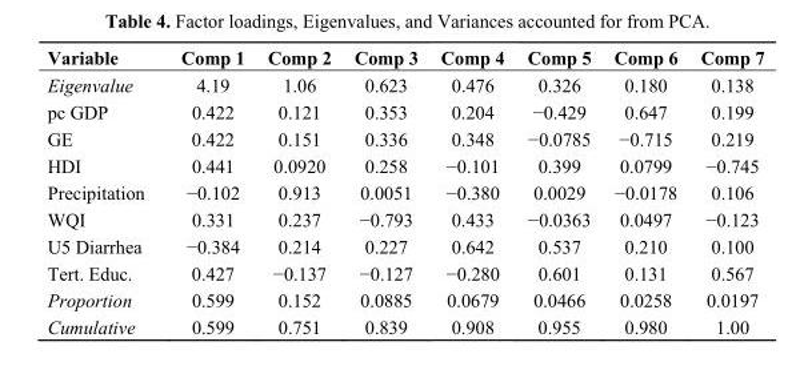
<table><thead><tr><td>Variable</td><td>Comp 1</td><td>Comp 2</td><td>Comp 3</td><td>Comp 4</td><td>Comp 5</td><td>Comp 6</td><td>Comp 7</td></tr></thead><tbody><tr><td>Eigenvalue</td><td>4.19</td><td>1.06</td><td>0.623</td><td>0.476</td><td>0.326</td><td>0.180</td><td>0.138</td></tr><tr><td>pc GDP</td><td>0.422</td><td>0.121</td><td>0.353</td><td>0.204</td><td>−0.429</td><td>0.647</td><td>0.199</td></tr><tr><td>GE</td><td>0.422</td><td>0.151</td><td>0.336</td><td>0.348</td><td>−0.0785</td><td>−0.715</td><td>0.219</td></tr><tr><td>HDI</td><td>0.441</td><td>0.0920</td><td>0.258</td><td>−0.101</td><td>0.399</td><td>0.0799</td><td>−0.745</td></tr><tr><td>Precipitation</td><td>−0.102</td><td>0.913</td><td>0.0051</td><td>−0.380</td><td>0.0029</td><td>−0.0178</td><td>0.106</td></tr><tr><td>WQI</td><td>0.331</td><td>0.237</td><td>−0.793</td><td>0.433</td><td>−0.0363</td><td>0.0497</td><td>−0.123</td></tr><tr><td>U5 Diarrhea</td><td>−0.384</td><td>0.214</td><td>0.227</td><td>0.642</td><td>0.537</td><td>0.210</td><td>0.100</td></tr><tr><td>Tert. Educ.</td><td>0.427</td><td>−0.137</td><td>−0.127</td><td>−0.280</td><td>0.601</td><td>0.131</td><td>0.567</td></tr><tr><td>Proportion</td><td>0.599</td><td>0.152</td><td>0.0885</td><td>0.0679</td><td>0.0466</td><td>0.0258</td><td>0.0197</td></tr><tr><td>Cumulative</td><td>0.599</td><td>0.751</td><td>0.839</td><td>0.908</td><td>0.955</td><td>0.980</td><td>1.00</td></tr></tbody></table>